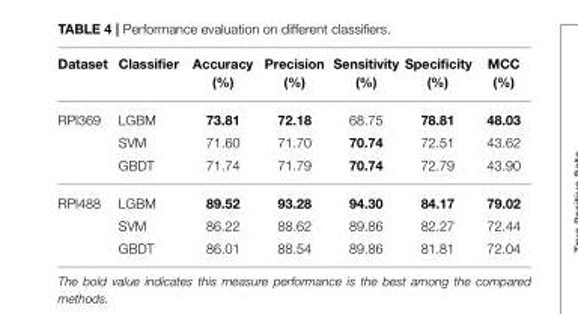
<table><thead><tr><td>Dataset</td><td>Classifier</td><td>Accuracy (%)</td><td>Precision (%)</td><td>Sensitivity (%)</td><td>Specificity (%)</td><td>MCC (%)</td></tr></thead><tbody><tr><td rowspan="3">RPI369</td><td>LGBM</td><td>73.81</td><td>72.18</td><td>68.75</td><td>78.81</td><td>48.03</td></tr><tr><td>SVM</td><td>71.60</td><td>71.70</td><td>70.74</td><td>72.51</td><td>43.62</td></tr><tr><td>GBDT</td><td>71.74</td><td>71.79</td><td>70.74</td><td>72.79</td><td>43.90</td></tr><tr><td rowspan="3">RPI488</td><td>LGBM</td><td>89.52</td><td>93.28</td><td>94.30</td><td>84.17</td><td>79.02</td></tr><tr><td>SVM</td><td>86.22</td><td>88.62</td><td>89.86</td><td>82.27</td><td>72.44</td></tr><tr><td>GBDT</td><td>86.01</td><td>88.54</td><td>89.86</td><td>81.81</td><td>72.04</td></tr></tbody></table>